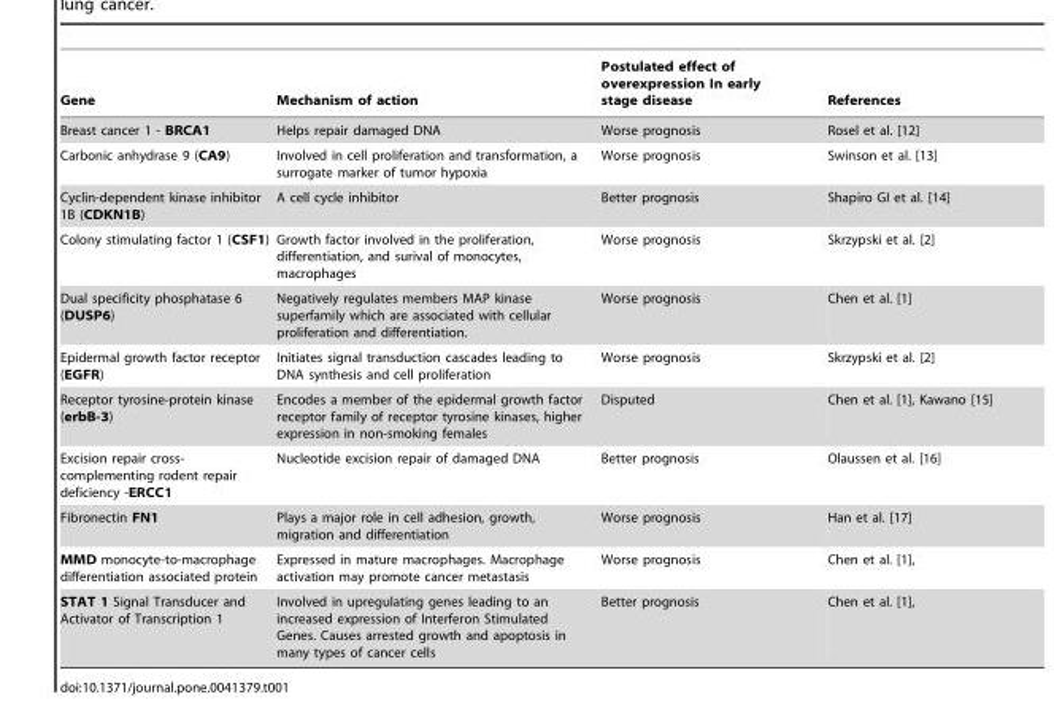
<table><thead><tr><td>Gene</td><td>Mechanism of action</td><td>Postulated effect of overexpression In early stage disease</td><td>References</td></tr></thead><tbody><tr><td>Breast cancer 1 - BRCA1</td><td>Helps repair damaged DNA</td><td>Worse prognosis</td><td>Rosel et al. [12]</td></tr><tr><td>Carbonic anhydrase 9 (CA9)</td><td>Involved in cell proliferation and transformation, a surrogate marker of tumor hypoxia</td><td>Worse prognosis</td><td>Swinson et al. [13]</td></tr><tr><td>Cyclin-dependent kinase inhibitor 1B (CDKN1B)</td><td>A cell cycle inhibitor</td><td>Better prognosis</td><td>Shapiro GI et al. [14]</td></tr><tr><td>Colony stimulating factor 1 (CSF1)</td><td>Growth factor involved in the proliferation, differentiation, and surival of monocytes, macrophages</td><td>Worse prognosis</td><td>Skrzypski et al. [2]</td></tr><tr><td>Dual specificity phosphatase 6 (DUSP6)</td><td>Negatively regulates members MAP kinase superfamily which are associated with cellular proliferation and differentiation.</td><td>Worse prognosis</td><td>Chen et al. [1]</td></tr><tr><td>Epidermal growth factor receptor (EGFR)</td><td>Initiates signal transduction cascades leading to DNA synthesis and cell proliferation</td><td>Worse prognosis</td><td>Skrzypski et al. [2]</td></tr><tr><td>Receptor tyrosine-protein kinase (erbB-3)</td><td>Encodes a member of the epidermal growth factor receptor family of receptor tyrosine kinases, higher expression in non-smoking females</td><td>Disputed</td><td>Chen et al. [1], Kawano [15]</td></tr><tr><td>Excision repair cross- complementing rodent repair deficiency -ERCC1</td><td>Nucleotide excision repair of damaged DNA</td><td>Better prognosis</td><td>Olaussen et al. [16]</td></tr><tr><td>Fibronectin FN1</td><td>Plays a major role in cell adhesion, growth, migration and differentiation</td><td>Worse prognosis</td><td>Han et al. [17]</td></tr><tr><td>MMD monocyte-to-macrophage differentiation associated protein</td><td>Expressed in mature macrophages. Macrophage activation may promote cancer metastasis</td><td>Worse prognosis</td><td>Chen et al. [1],</td></tr><tr><td>STAT 1 Signal Transducer and Activator of Transcription 1</td><td>Involved in upregulating genes leading to an increased expression of Interferon Stimulated Genes. Causes arrested growth and apoptosis in many types of cancer cells</td><td>Better prognosis</td><td>Chen et al. [1],</td></tr></tbody></table>